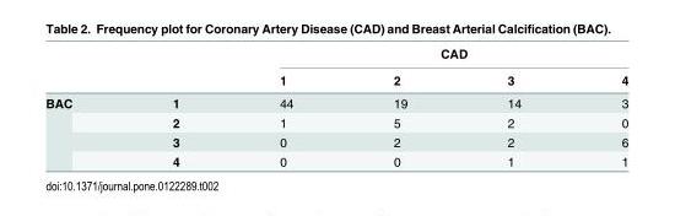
<table><thead><tr><td rowspan="2"></td><td rowspan="2"></td><td colspan="4">CAD</td></tr><tr><td>1</td><td>2</td><td>3</td><td>4</td></tr></thead><tbody><tr><td rowspan="4">BAC</td><td>1</td><td>44</td><td>19</td><td>14</td><td>3</td></tr><tr><td>2</td><td>1</td><td>5</td><td>2</td><td>0</td></tr><tr><td>3</td><td>0</td><td>2</td><td>2</td><td>6</td></tr><tr><td>4</td><td>0</td><td>0</td><td>1</td><td>1</td></tr></tbody></table>